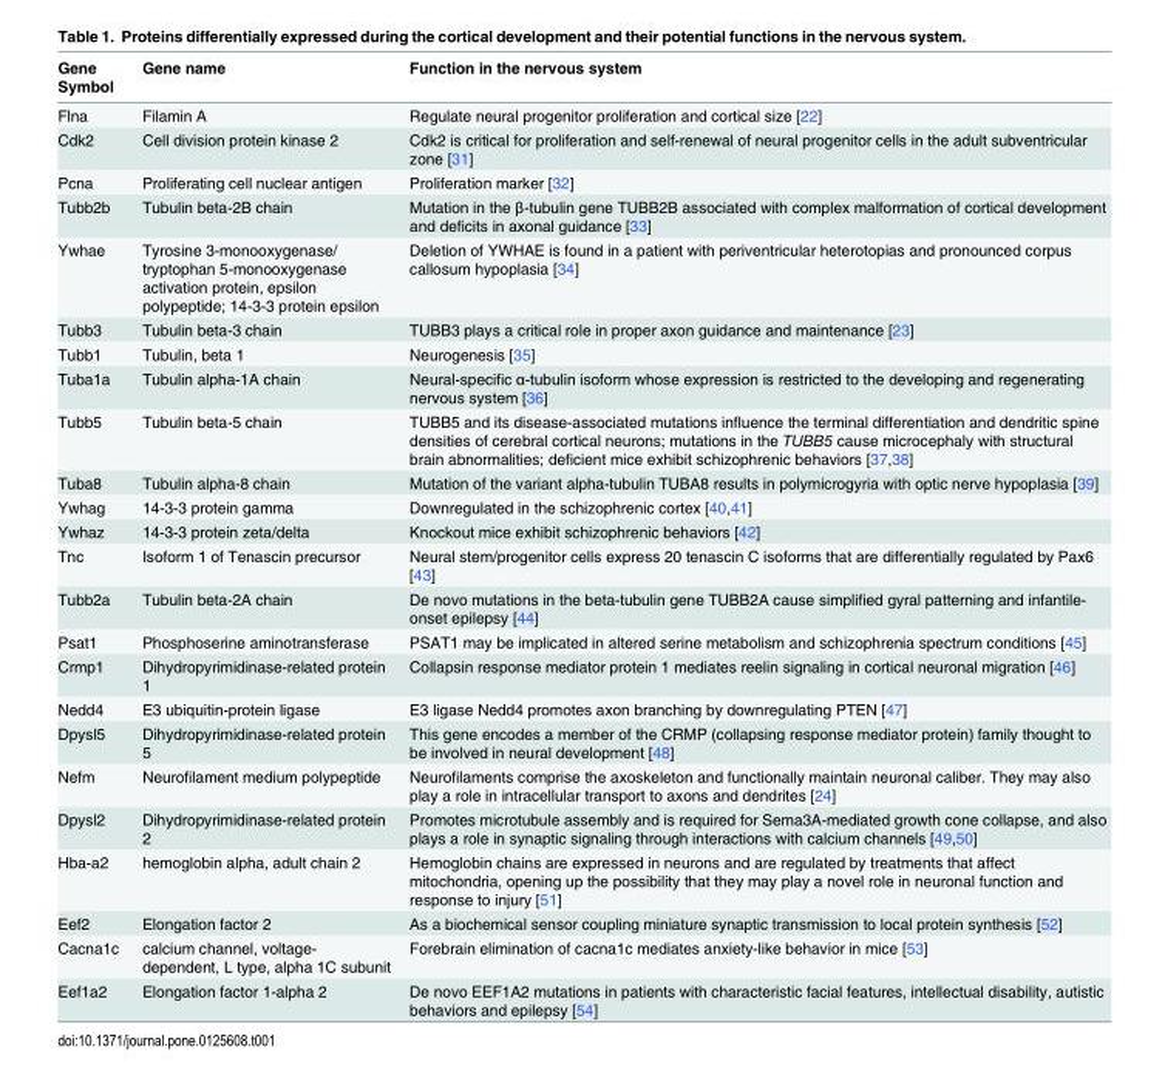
<table><thead><tr><td>Gene Symbol</td><td>Gene name</td><td>Function in the nervous system</td></tr></thead><tbody><tr><td>Flna</td><td>Filamin A</td><td>Regulate neural progenitor proliferation and cortical size [22]</td></tr><tr><td>Cdk2</td><td>Cell division protein kinase 2</td><td>Cdk2 is critical for proliferation and self-renewal of neural progenitor cells in the adult subventricular zone [31]</td></tr><tr><td>Pcna</td><td>Proliferating cell nuclear antigen</td><td>Proliferation marker [32]</td></tr><tr><td>Tubb2b</td><td>Tubulin beta-2B chain</td><td>Mutation in the β-tubulin gene TUBB2B associated with complex malformation of cortical development and deficits in axonal guidance [33]</td></tr><tr><td>Ywhae</td><td>Tyrosine 3-monooxygenase/ tryptophan 5-monooxygenase activation protein, epsilon polypeptide; 14-3-3 protein epsilon</td><td>Deletion of YWHAE is found in a patient with periventricular heterotopias and pronounced corpus callosum hypoplasia [34]</td></tr><tr><td>Tubb3</td><td>Tubulin beta-3 chain</td><td>TUBB3 plays a critical role in proper axon guidance and maintenance [23]</td></tr><tr><td>Tubb1</td><td>Tubulin, beta 1</td><td>Neurogenesis [35]</td></tr><tr><td>Tuba1a</td><td>Tubulin alpha-1A chain</td><td>Neural-specific α-tubulin isoform whose expression is restricted to the developing and regenerating nervous system [36]</td></tr><tr><td>Tubb5</td><td>Tubulin beta-5 chain</td><td>TUBB5 and its disease-associated mutations influence the terminal differentiation and dendritic spine densities of cerebral cortical neurons; mutations in the TUBB5 cause microcephaly with structural brain abnormalities; deficient mice exhibit schizophrenic behaviors [37,38]</td></tr><tr><td>Tuba8</td><td>Tubulin alpha-8 chain</td><td>Mutation of the variant alpha-tubulin TUBA8 results in polymicrogyria with optic nerve hypoplasia [39]</td></tr><tr><td>Ywhag</td><td>14-3-3 protein gamma</td><td>Downregulated in the schizophrenic cortex [40,41]</td></tr><tr><td>Ywhaz</td><td>14-3-3 protein zeta/delta</td><td>Knockout mice exhibit schizophrenic behaviors [42]</td></tr><tr><td>Tnc</td><td>Isoform 1 of Tenascin precursor</td><td>Neural stem/progenitor cells express 20 tenascin C isoforms that are differentially regulated by Pax6 [43]</td></tr><tr><td>Tubb2a</td><td>Tubulin beta-2A chain</td><td>De novo mutations in the beta-tubulin gene TUBB2A cause simplified gyral patterning and infantile- onset epilepsy [44]</td></tr><tr><td>Psat1</td><td>Phosphoserine aminotransferase</td><td>PSAT1 may be implicated in altered serine metabolism and schizophrenia spectrum conditions [45]</td></tr><tr><td>Crmp1</td><td>Dihydropyrimidinase-related protein 1</td><td>Collapsin response mediator protein 1 mediates reelin signaling in cortical neuronal migration [46]</td></tr><tr><td>Nedd4</td><td>E3 ubiquitin-protein ligase</td><td>E3 ligase Nedd4 promotes axon branching by downregulating PTEN [47]</td></tr><tr><td>Dpysl5</td><td>Dihydropyrimidinase-related protein 5</td><td>This gene encodes a member of the CRMP (collapsing response mediator protein) family thought to be involved in neural development [48]</td></tr><tr><td>Nefm</td><td>Neurofilament medium polypeptide</td><td>Neurofilaments comprise the axoskeleton and functionally maintain neuronal caliber. They may also play a role in intracellular transport to axons and dendrites [24]</td></tr><tr><td>Dpysl2</td><td>Dihydropyrimidinase-related protein 2</td><td>Promotes microtubule assembly and is required for Sema3A-mediated growth cone collapse, and also plays a role in synaptic signaling through interactions with calcium channels [49,50]</td></tr><tr><td>Hba-a2</td><td>hemoglobin alpha, adult chain 2</td><td>Hemoglobin chains are expressed in neurons and are regulated by treatments that affect mitochondria, opening up the possibility that they may play a novel role in neuronal function and response to injury [51]</td></tr><tr><td>Eef2</td><td>Elongation factor 2</td><td>As a biochemical sensor coupling miniature synaptic transmission to local protein synthesis [52]</td></tr><tr><td>Cacna1c</td><td>calcium channel, voltage- dependent, L type, alpha 1C subunit</td><td>Forebrain elimination of cacna1c mediates anxiety-like behavior in mice [53]</td></tr><tr><td>Eef1a2</td><td>Elongation factor 1-alpha 2</td><td>De novo EEF1A2 mutations in patients with characteristic facial features, intellectual disability, autistic behaviors and epilepsy [54]</td></tr></tbody></table>